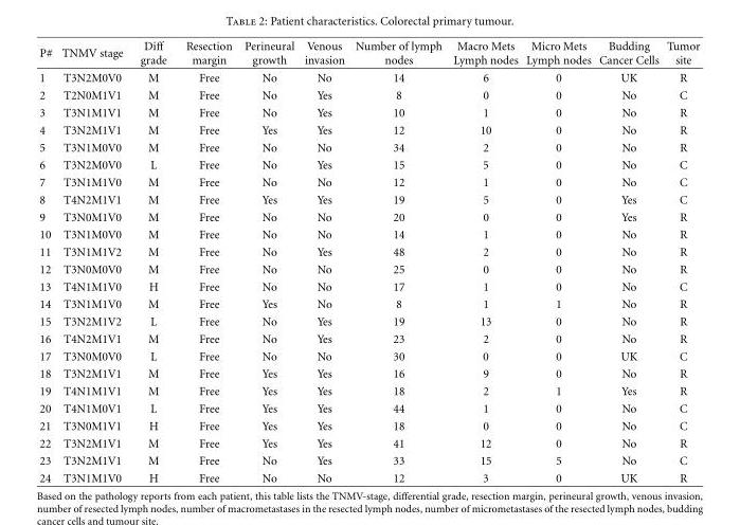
<table><thead><tr><td>P#</td><td>TNMV stage</td><td>Diff grade</td><td>Resection margin</td><td>Perineural growth</td><td>Venous invasion</td><td>Number of lymph nodes</td><td>Macro Mets Lymph nodes</td><td>Micro Mets Lymph nodes</td><td>Budding Cancer Cells</td><td>Tumor site</td></tr></thead><tbody><tr><td>1</td><td>T3N2M0V0</td><td>M</td><td>Free</td><td>No</td><td>No</td><td>14</td><td>6</td><td>0</td><td>UK</td><td>R</td></tr><tr><td>2</td><td>T2N0M1V1</td><td>M</td><td>Free</td><td>No</td><td>Yes</td><td>8</td><td>0</td><td>0</td><td>No</td><td>C</td></tr><tr><td>3</td><td>T3N1M1V1</td><td>M</td><td>Free</td><td>No</td><td>Yes</td><td>10</td><td>1</td><td>0</td><td>No</td><td>R</td></tr><tr><td>4</td><td>T3N2M1V1</td><td>M</td><td>Free</td><td>Yes</td><td>Yes</td><td>12</td><td>10</td><td>0</td><td>No</td><td>R</td></tr><tr><td>5</td><td>T3N1M0V0</td><td>M</td><td>Free</td><td>No</td><td>No</td><td>34</td><td>2</td><td>0</td><td>No</td><td>R</td></tr><tr><td>6</td><td>T3N2M0V0</td><td>L</td><td>Free</td><td>No</td><td>Yes</td><td>15</td><td>5</td><td>0</td><td>No</td><td>C</td></tr><tr><td>7</td><td>T3N1M1V0</td><td>M</td><td>Free</td><td>No</td><td>No</td><td>12</td><td>1</td><td>0</td><td>No</td><td>C</td></tr><tr><td>8</td><td>T4N2M1V1</td><td>M</td><td>Free</td><td>Yes</td><td>Yes</td><td>19</td><td>5</td><td>0</td><td>Yes</td><td>C</td></tr><tr><td>9</td><td>T3N0M1V0</td><td>M</td><td>Free</td><td>No</td><td>No</td><td>20</td><td>0</td><td>0</td><td>Yes</td><td>R</td></tr><tr><td>10</td><td>T3N1M0V0</td><td>M</td><td>Free</td><td>No</td><td>No</td><td>14</td><td>1</td><td>0</td><td>No</td><td>R</td></tr><tr><td>11</td><td>T3N1M1V2</td><td>M</td><td>Free</td><td>No</td><td>Yes</td><td>48</td><td>2</td><td>0</td><td>No</td><td>R</td></tr><tr><td>12</td><td>T3N0M0V0</td><td>M</td><td>Free</td><td>No</td><td>No</td><td>25</td><td>0</td><td>0</td><td>No</td><td>R</td></tr><tr><td>13</td><td>T4N1M1V0</td><td>H</td><td>Free</td><td>No</td><td>No</td><td>17</td><td>1</td><td>0</td><td>No</td><td>C</td></tr><tr><td>14</td><td>T3N1M1V0</td><td>M</td><td>Free</td><td>Yes</td><td>No</td><td>8</td><td>1</td><td>1</td><td>No</td><td>R</td></tr><tr><td>15</td><td>T3N2M1V2</td><td>L</td><td>Free</td><td>No</td><td>Yes</td><td>19</td><td>13</td><td>0</td><td>No</td><td>R</td></tr><tr><td>16</td><td>T4N2M1V1</td><td>M</td><td>Free</td><td>No</td><td>Yes</td><td>23</td><td>2</td><td>0</td><td>No</td><td>R</td></tr><tr><td>17</td><td>T3N0M0V0</td><td>L</td><td>Free</td><td>No</td><td>No</td><td>30</td><td>0</td><td>0</td><td>UK</td><td>C</td></tr><tr><td>18</td><td>T3N2M1V1</td><td>M</td><td>Free</td><td>Yes</td><td>Yes</td><td>16</td><td>9</td><td>0</td><td>No</td><td>R</td></tr><tr><td>19</td><td>T4N1M1V1</td><td>M</td><td>Free</td><td>Yes</td><td>Yes</td><td>18</td><td>2</td><td>1</td><td>Yes</td><td>R</td></tr><tr><td>20</td><td>T4N1M0V1</td><td>L</td><td>Free</td><td>Yes</td><td>Yes</td><td>44</td><td>1</td><td>0</td><td>No</td><td>C</td></tr><tr><td>21</td><td>T3N0M1V1</td><td>H</td><td>Free</td><td>Yes</td><td>Yes</td><td>18</td><td>0</td><td>0</td><td>No</td><td>C</td></tr><tr><td>22</td><td>T3N2M1V1</td><td>M</td><td>Free</td><td>Yes</td><td>Yes</td><td>41</td><td>12</td><td>0</td><td>No</td><td>R</td></tr><tr><td>23</td><td>T3N2M1V1</td><td>M</td><td>Free</td><td>No</td><td>Yes</td><td>33</td><td>15</td><td>5</td><td>No</td><td>C</td></tr><tr><td>24</td><td>T3N1M1V0</td><td>H</td><td>Free</td><td>No</td><td>No</td><td>12</td><td>3</td><td>0</td><td>UK</td><td>R</td></tr></tbody></table>